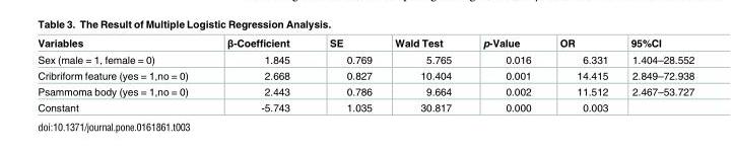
<table><thead><tr><td>Variables</td><td>β-Coefficient</td><td>SE</td><td>Wald Test</td><td>p-Value</td><td>OR</td><td>95%CI</td></tr></thead><tbody><tr><td>Sex (male = 1, female = 0)</td><td>1.845</td><td>0.769</td><td>5.765</td><td>0.016</td><td>6.331</td><td>1.404–28.552</td></tr><tr><td>Cribriform feature (yes = 1,no = 0)</td><td>2.668</td><td>0.827</td><td>10.404</td><td>0.001</td><td>14.415</td><td>2.849–72.938</td></tr><tr><td>Psammoma body (yes = 1,no = 0)</td><td>2.443</td><td>0.786</td><td>9.664</td><td>0.002</td><td>11.512</td><td>2.467–53.727</td></tr><tr><td>Constant</td><td>-5.743</td><td>1.035</td><td>30.817</td><td>0.000</td><td>0.003</td><td></td></tr></tbody></table>